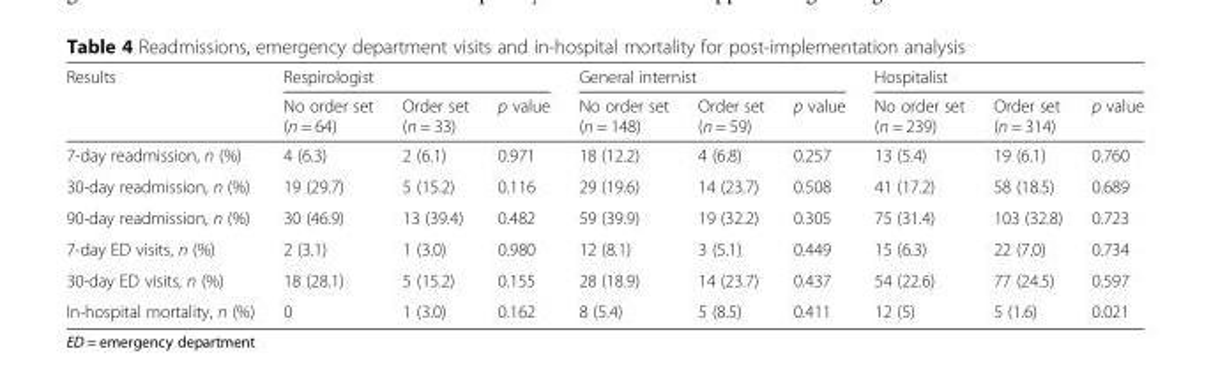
<table><thead><tr><td rowspan="2">Results</td><td colspan="3">Respirologist</td><td colspan="3">General internist</td><td colspan="3">Hospitalist</td></tr><tr><td>No order set (n = 64)</td><td>Order set (n = 33)</td><td>p value</td><td>No order set (n = 148)</td><td>Order set (n = 59)</td><td>p value</td><td>No order set (n = 239)</td><td>Order set (n = 314)</td><td>p value</td></tr></thead><tbody><tr><td>7-day readmission, n (%)</td><td>4 (6.3)</td><td>2 (6.1)</td><td>0.971</td><td>18 (12.2)</td><td>4 (6.8)</td><td>0.257</td><td>13 (5.4)</td><td>19 (6.1)</td><td>0.760</td></tr><tr><td>30-day readmission, n (%)</td><td>19 (29.7)</td><td>5 (15.2)</td><td>0.116</td><td>29 (19.6)</td><td>14 (23.7)</td><td>0.508</td><td>41 (17.2)</td><td>58 (18.5)</td><td>0.689</td></tr><tr><td>90-day readmission, n (%)</td><td>30 (46.9)</td><td>13 (39.4)</td><td>0.482</td><td>59 (39.9)</td><td>19 (32.2)</td><td>0.305</td><td>75 (31.4)</td><td>103 (32.8)</td><td>0.723</td></tr><tr><td>7-day ED visits, n (%)</td><td>2 (3.1)</td><td>1 (3.0)</td><td>0.980</td><td>12 (8.1)</td><td>3 (5.1)</td><td>0.449</td><td>15 (6.3)</td><td>22 (7.0)</td><td>0.734</td></tr><tr><td>30-day ED visits, n (%)</td><td>18 (28.1)</td><td>5 (15.2)</td><td>0.155</td><td>28 (18.9)</td><td>14 (23.7)</td><td>0.437</td><td>54 (22.6)</td><td>77 (24.5)</td><td>0.597</td></tr><tr><td>In-hospital mortality, n (%)</td><td>0</td><td>1 (3.0)</td><td>0.162</td><td>8 (5.4)</td><td>5 (8.5)</td><td>0.411</td><td>12 (5)</td><td>5 (1.6)</td><td>0.021</td></tr></tbody></table>